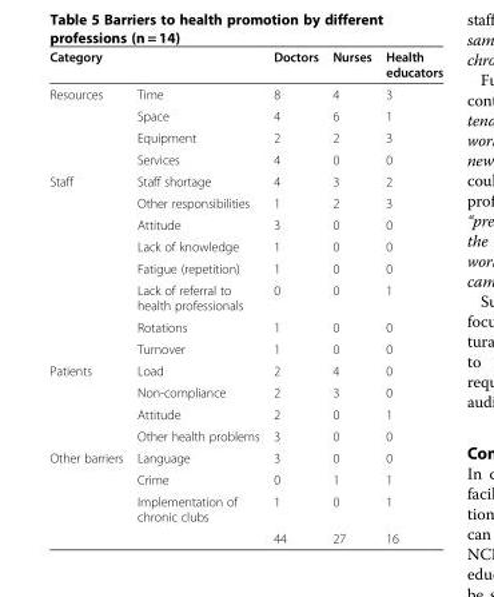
<table><thead><tr><td>Category</td><td></td><td>Doctors</td><td>Nurses</td><td>Health educators</td></tr></thead><tbody><tr><td rowspan="4">Resources</td><td>Time</td><td>8</td><td>4</td><td>3</td></tr><tr><td>Space</td><td>4</td><td>6</td><td>1</td></tr><tr><td>Equipment</td><td>2</td><td>2</td><td>3</td></tr><tr><td>Services</td><td>4</td><td>0</td><td>0</td></tr><tr><td rowspan="8">Staff</td><td>Staff shortage</td><td>4</td><td>3</td><td>2</td></tr><tr><td>Other responsibilities</td><td>1</td><td>2</td><td>3</td></tr><tr><td>Attitude</td><td>3</td><td>0</td><td>0</td></tr><tr><td>Lack of knowledge</td><td>1</td><td>0</td><td>0</td></tr><tr><td>Fatigue (repetition)</td><td>1</td><td>0</td><td>0</td></tr><tr><td>Lack of referral to health professionals</td><td>0</td><td>0</td><td>1</td></tr><tr><td>Rotations</td><td>1</td><td>0</td><td>0</td></tr><tr><td>Turnover</td><td>1</td><td>0</td><td>0</td></tr><tr><td rowspan="4">Patients</td><td>Load</td><td>2</td><td>4</td><td>0</td></tr><tr><td>Non-compliance</td><td>2</td><td>3</td><td>0</td></tr><tr><td>Attitude</td><td>2</td><td>0</td><td>1</td></tr><tr><td>Other health problems</td><td>3</td><td>0</td><td>0</td></tr><tr><td rowspan="4">Other barriers</td><td>Language</td><td>3</td><td>0</td><td>0</td></tr><tr><td>Crime</td><td>0</td><td>1</td><td>1</td></tr><tr><td>Implementation of chronic clubs</td><td>1</td><td>0</td><td>1</td></tr><tr><td></td><td>44</td><td>27</td><td>16</td></tr></tbody></table>